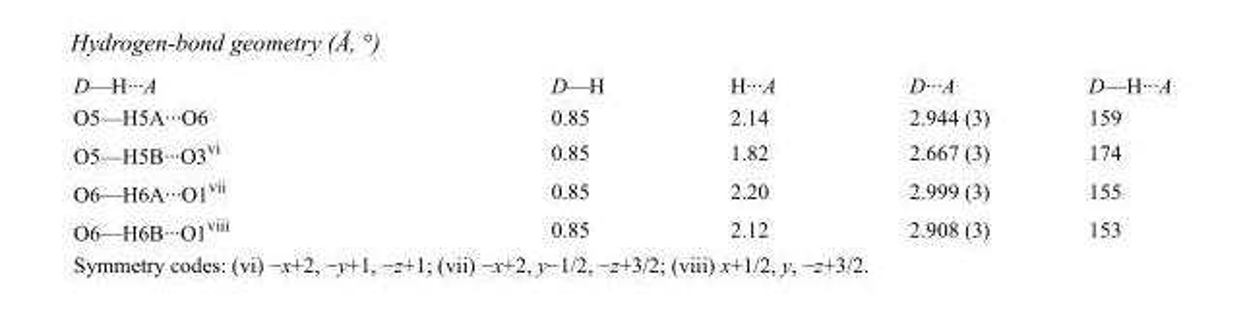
<table><tbody><tr><td>D—H···A</td><td>D—H</td><td>H···A</td><td>D···A</td><td>D—H···A</td></tr><tr><td>O5—H5A···O6</td><td>0.85</td><td>2.14</td><td>2.944 (3)</td><td>159</td></tr><tr><td>O5—H5B···O3<sup>vi</sup></td><td>0.85</td><td>1.82</td><td>2.667 (3)</td><td>174</td></tr><tr><td>O6—H6A···O1<sup>vii</sup></td><td>0.85</td><td>2.20</td><td>2.999 (3)</td><td>155</td></tr><tr><td>O6—H6B···O1<sup>viii</sup></td><td>0.85</td><td>2.12</td><td>2.908 (3)</td><td>153</td></tr></tbody></table>